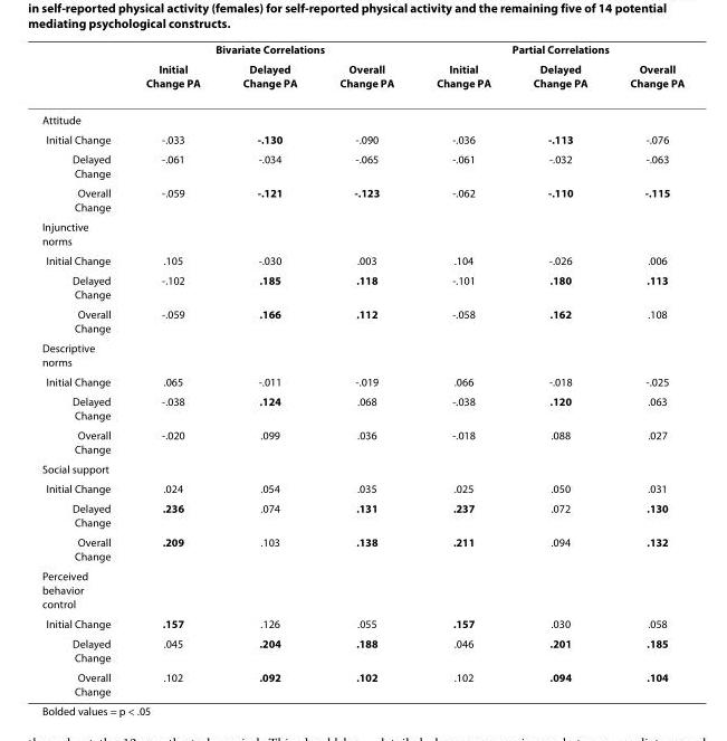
<table><thead><tr><td rowspan="2"></td><td colspan="3">Bivariate Correlations</td><td colspan="3">Partial Correlations</td></tr><tr><td>Initial Change PA</td><td>Delayed Change PA</td><td>Overall Change PA</td><td>Initial Change PA</td><td>Delayed Change PA</td><td>Overall Change PA</td></tr></thead><tbody><tr><td colspan="7">Attitude</td></tr><tr><td>Initial Change</td><td>-.033</td><td>-.130</td><td>-.090</td><td>-.036</td><td>-.113</td><td>-.076</td></tr><tr><td>Delayed Change</td><td>-.061</td><td>-.034</td><td>-.065</td><td>-.061</td><td>-.032</td><td>-.063</td></tr><tr><td>Overall Change</td><td>-.059</td><td>-.121</td><td>-.123</td><td>-.062</td><td>-.110</td><td>-.115</td></tr><tr><td colspan="7">Injunctive norms</td></tr><tr><td>Initial Change</td><td>.105</td><td>-.030</td><td>.003</td><td>.104</td><td>-.026</td><td>.006</td></tr><tr><td>Delayed Change</td><td>-.102</td><td>.185</td><td>.118</td><td>-.101</td><td>.180</td><td>.113</td></tr><tr><td>Overall Change</td><td>-.059</td><td>.166</td><td>.112</td><td>-.058</td><td>.162</td><td>.108</td></tr><tr><td colspan="7">Descriptive norms</td></tr><tr><td>Initial Change</td><td>.065</td><td>-.011</td><td>-.019</td><td>.066</td><td>-.018</td><td>-.025</td></tr><tr><td>Delayed Change</td><td>-.038</td><td>.124</td><td>.068</td><td>-.038</td><td>.120</td><td>.063</td></tr><tr><td>Overall Change</td><td>-.020</td><td>.099</td><td>.036</td><td>-.018</td><td>.088</td><td>.027</td></tr><tr><td colspan="7">Social support</td></tr><tr><td>Initial Change</td><td>.024</td><td>.054</td><td>.035</td><td>.025</td><td>.050</td><td>.031</td></tr><tr><td>Delayed Change</td><td>.236</td><td>.074</td><td>.131</td><td>.237</td><td>.072</td><td>.130</td></tr><tr><td>Overall Change</td><td>.209</td><td>.103</td><td>.138</td><td>.211</td><td>.094</td><td>.132</td></tr><tr><td colspan="7">Perceived behavior control</td></tr><tr><td>Initial Change</td><td>.157</td><td>.126</td><td>.055</td><td>.157</td><td>.030</td><td>.058</td></tr><tr><td>Delayed Change</td><td>.045</td><td>.204</td><td>.188</td><td>.046</td><td>.201</td><td>.185</td></tr><tr><td>Overall Change</td><td>.102</td><td>.092</td><td>.102</td><td>.102</td><td>.094</td><td>.104</td></tr></tbody></table>